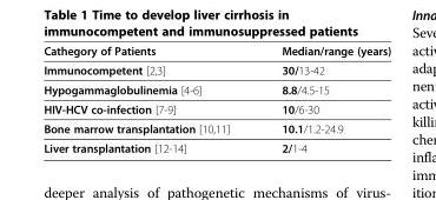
<table><thead><tr><td>Cathegory of Patients</td><td>Median/range (years)</td></tr></thead><tbody><tr><td>Immunocompetent [2,3]</td><td>30/13-42</td></tr><tr><td>Hypogammaglobulinemia [4-6]</td><td>8.8/4.5-15</td></tr><tr><td>HIV-HCV co-infection [7-9]</td><td>10/6-30</td></tr><tr><td>Bone marrow transplantation [10,11]</td><td>10.1/1.2-24.9</td></tr><tr><td>Liver transplantation [12-14]</td><td>2/1-4</td></tr></tbody></table>